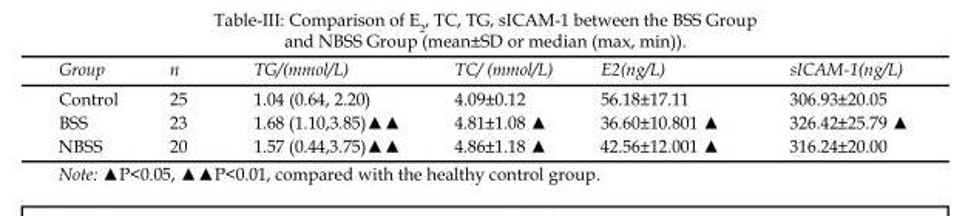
<table><thead><tr><td>Group</td><td>n</td><td>TG/(mmol/L)</td><td>TC/ (mmol/L)</td><td>E<sub>2</sub>(ng/L)</td><td>sICAM-1(ng/L)</td></tr></thead><tbody><tr><td>Control</td><td>25</td><td>1.04 (0.64, 2.20)</td><td>4.09±0.12</td><td>56.18±17.11</td><td>306.93±20.05</td></tr><tr><td>BSS</td><td>23</td><td>1.68 (1.10,3.85)▲▲</td><td>4.81±1.08 ▲</td><td>36.60±10.801 ▲</td><td>326.42±25.79 ▲</td></tr><tr><td>NBSS</td><td>20</td><td>1.57 (0.44,3.75)▲▲</td><td>4.86±1.18 ▲</td><td>42.56±12.001 ▲</td><td>316.24±20.00</td></tr></tbody></table>